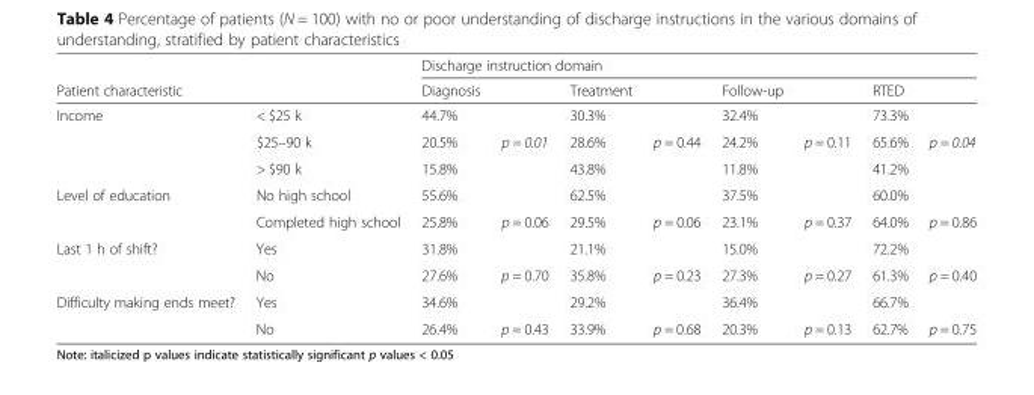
<table><thead><tr><td></td><td></td><td colspan="8">Discharge instruction domain</td></tr><tr><td colspan="2">Patient characteristic</td><td>Diagnosis</td><td></td><td>Treatment</td><td></td><td>Follow-up</td><td></td><td>RTED</td><td></td></tr></thead><tbody><tr><td rowspan="3">Income</td><td>&lt; $25 k</td><td>44.7%</td><td></td><td>30.3%</td><td></td><td>32.4%</td><td></td><td>73.3%</td><td></td></tr><tr><td>$25–90 k</td><td>20.5%</td><td>p = 0.01</td><td>28.6%</td><td>p = 0.44</td><td>24.2%</td><td>p = 0.11</td><td>65.6%</td><td>p = 0.04</td></tr><tr><td>&gt; $90 k</td><td>15.8%</td><td></td><td>43.8%</td><td></td><td>11.8%</td><td></td><td>41.2%</td><td></td></tr><tr><td rowspan="2">Level of education</td><td>No high school</td><td>55.6%</td><td></td><td>62.5%</td><td></td><td>37.5%</td><td></td><td>60.0%</td><td></td></tr><tr><td>Completed high school</td><td>25.8%</td><td>p = 0.06</td><td>29.5%</td><td>p = 0.06</td><td>23.1%</td><td>p = 0.37</td><td>64.0%</td><td>p = 0.86</td></tr><tr><td rowspan="2">Last 1 h of shift?</td><td>Yes</td><td>31.8%</td><td></td><td>21.1%</td><td></td><td>15.0%</td><td></td><td>72.2%</td><td></td></tr><tr><td>No</td><td>27.6%</td><td>p = 0.70</td><td>35.8%</td><td>p = 0.23</td><td>27.3%</td><td>p = 0.27</td><td>61.3%</td><td>p = 0.40</td></tr><tr><td rowspan="2">Difficulty making ends meet?</td><td>Yes</td><td>34.6%</td><td></td><td>29.2%</td><td></td><td>36.4%</td><td></td><td>66.7%</td><td></td></tr><tr><td>No</td><td>26.4%</td><td>p = 0.43</td><td>33.9%</td><td>p = 0.68</td><td>20.3%</td><td>p = 0.13</td><td>62.7%</td><td>p = 0.75</td></tr></tbody></table>